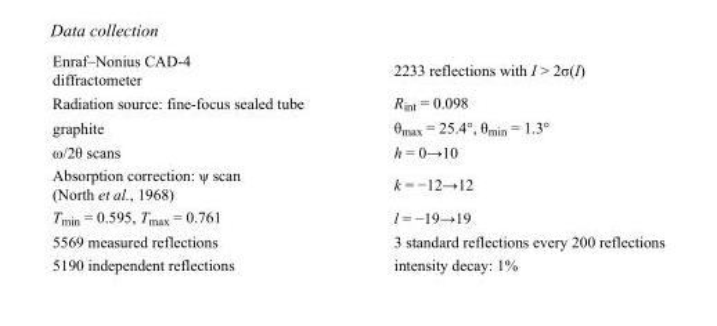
<table><tbody><tr><td>Enraf–Nonius CAD-4 diffractometer</td><td>2233 reflections with I &gt; 2σ(I)</td></tr><tr><td>Radiation source: fine-focus sealed tube</td><td>R<sub>int</sub> = 0.098</td></tr><tr><td>graphite</td><td>θ<sub>max</sub> = 25.4°, θ<sub>min</sub> = 1.3°</td></tr><tr><td>ω/2θ scans</td><td>h = 0→10</td></tr><tr><td>Absorption correction: ψ scan (North et al., 1968)</td><td>k = −12→12</td></tr><tr><td>T<sub>min</sub> = 0.595, T<sub>max</sub> = 0.761</td><td>l = −19→19</td></tr><tr><td>5569 measured reflections</td><td>3 standard reflections every 200 reflections</td></tr><tr><td>5190 independent reflections</td><td>intensity decay: 1%</td></tr></tbody></table>